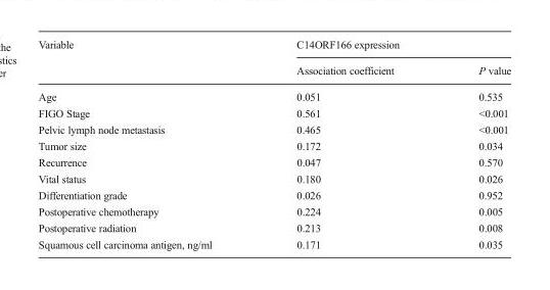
<table><thead><tr><td rowspan="2">Variable</td><td colspan="2">C14ORF166 expression</td></tr><tr><td>Association coefficient</td><td>P value</td></tr></thead><tbody><tr><td>Age</td><td>0.051</td><td>0.535</td></tr><tr><td>FIGO Stage</td><td>0.561</td><td>&lt;0.001</td></tr><tr><td>Pelvic lymph node metastasis</td><td>0.465</td><td>&lt;0.001</td></tr><tr><td>Tumor size</td><td>0.172</td><td>0.034</td></tr><tr><td>Recurrence</td><td>0.047</td><td>0.570</td></tr><tr><td>Vital status</td><td>0.180</td><td>0.026</td></tr><tr><td>Differentiation grade</td><td>0.026</td><td>0.952</td></tr><tr><td>Postoperative chemotherapy</td><td>0.224</td><td>0.005</td></tr><tr><td>Postoperative radiation</td><td>0.213</td><td>0.008</td></tr><tr><td>Squamous cell carcinoma antigen, ng/ml</td><td>0.171</td><td>0.035</td></tr></tbody></table>